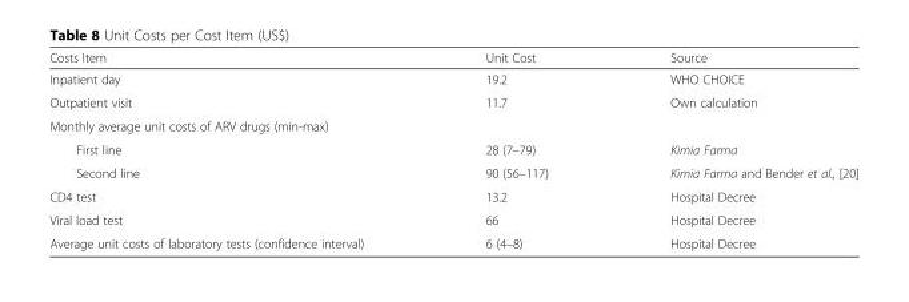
<table><thead><tr><td>Costs Item</td><td>Unit Cost</td><td>Source</td></tr></thead><tbody><tr><td>Inpatient day</td><td>19.2</td><td>WHO CHOICE</td></tr><tr><td>Outpatient visit</td><td>11.7</td><td>Own calculation</td></tr><tr><td colspan="3">Monthly average unit costs of ARV drugs (min-max)</td></tr><tr><td>First line</td><td>28 (7–79)</td><td>Kimia Farma</td></tr><tr><td>Second line</td><td>90 (56–117)</td><td>Kimia Farma and Bender et al., [20]</td></tr><tr><td>CD4 test</td><td>13.2</td><td>Hospital Decree</td></tr><tr><td>Viral load test</td><td>66</td><td>Hospital Decree</td></tr><tr><td>Average unit costs of laboratory tests (confidence interval)</td><td>6 (4–8)</td><td>Hospital Decree</td></tr></tbody></table>